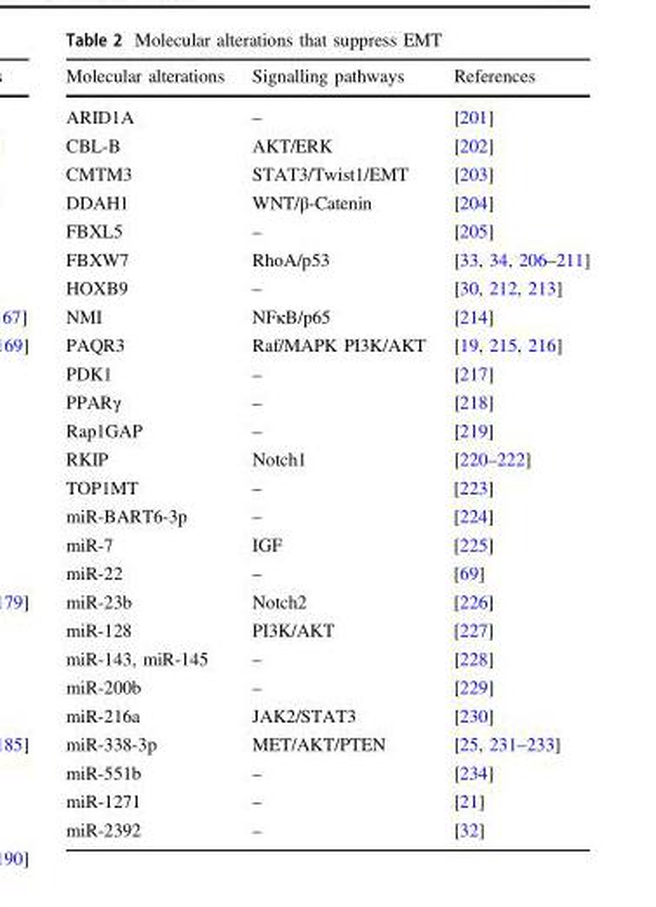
<table><thead><tr><td>Molecular alterations</td><td>Signalling pathways</td><td>References</td></tr></thead><tbody><tr><td>ARID1A</td><td>–</td><td>[201]</td></tr><tr><td>CBL-B</td><td>AKT/ERK</td><td>[202]</td></tr><tr><td>CMTM3</td><td>STAT3/Twist1/EMT</td><td>[203]</td></tr><tr><td>DDAH1</td><td>WNT/β-Catenin</td><td>[204]</td></tr><tr><td>FBXL5</td><td>–</td><td>[205]</td></tr><tr><td>FBXW7</td><td>RhoA/p53</td><td>[33, 34, 206–211]</td></tr><tr><td>HOXB9</td><td>–</td><td>[30, 212, 213]</td></tr><tr><td>NMI</td><td>NFκB/p65</td><td>[214]</td></tr><tr><td>PAQR3</td><td>Raf/MAPK PI3K/AKT</td><td>[19, 215, 216]</td></tr><tr><td>PDK1</td><td>–</td><td>[217]</td></tr><tr><td>PPARγ</td><td>–</td><td>[218]</td></tr><tr><td>Rap1GAP</td><td>–</td><td>[219]</td></tr><tr><td>RKIP</td><td>Notch1</td><td>[220–222]</td></tr><tr><td>TOP1MT</td><td>–</td><td>[223]</td></tr><tr><td>miR-BART6-3p</td><td>–</td><td>[224]</td></tr><tr><td>miR-7</td><td>IGF</td><td>[225]</td></tr><tr><td>miR-22</td><td>–</td><td>[69]</td></tr><tr><td>miR-23b</td><td>Notch2</td><td>[226]</td></tr><tr><td>miR-128</td><td>PI3K/AKT</td><td>[227]</td></tr><tr><td>miR-143, miR-145</td><td>–</td><td>[228]</td></tr><tr><td>miR-200b</td><td>–</td><td>[229]</td></tr><tr><td>miR-216a</td><td>JAK2/STAT3</td><td>[230]</td></tr><tr><td>miR-338-3p</td><td>MET/AKT/PTEN</td><td>[25, 231–233]</td></tr><tr><td>miR-551b</td><td>–</td><td>[234]</td></tr><tr><td>miR-1271</td><td>–</td><td>[21]</td></tr><tr><td>miR-2392</td><td>–</td><td>[32]</td></tr></tbody></table>